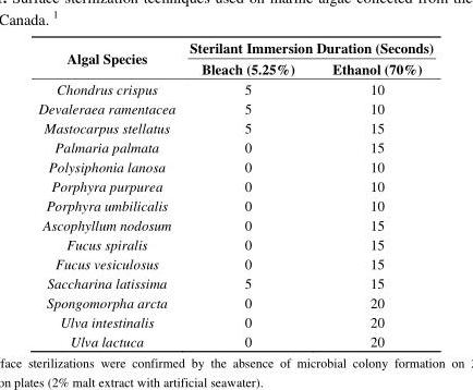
<table><thead><tr><td rowspan="2">Algal Species</td><td colspan="2">Sterilant Immersion Duration (Seconds)</td></tr><tr><td>Bleach (5.25%)</td><td>Ethanol (70%)</td></tr></thead><tbody><tr><td>Chondrus crispus</td><td>5</td><td>10</td></tr><tr><td>Devaleraea ramentacea</td><td>5</td><td>10</td></tr><tr><td>Mastocarpus stellatus</td><td>5</td><td>15</td></tr><tr><td>Palmaria palmata</td><td>0</td><td>15</td></tr><tr><td>Polysiphonia lanosa</td><td>0</td><td>10</td></tr><tr><td>Porphyra purpurea</td><td>0</td><td>10</td></tr><tr><td>Porphyra umbilicalis</td><td>0</td><td>10</td></tr><tr><td>Ascophyllum nodosum</td><td>0</td><td>15</td></tr><tr><td>Fucus spiralis</td><td>0</td><td>15</td></tr><tr><td>Fucus vesiculosus</td><td>0</td><td>15</td></tr><tr><td>Saccharina latissima</td><td>5</td><td>15</td></tr><tr><td>Spongomorpha arcta</td><td>0</td><td>20</td></tr><tr><td>Ulva intestinalis</td><td>0</td><td>20</td></tr><tr><td>Ulva lactuca</td><td>0</td><td>20</td></tr></tbody></table>